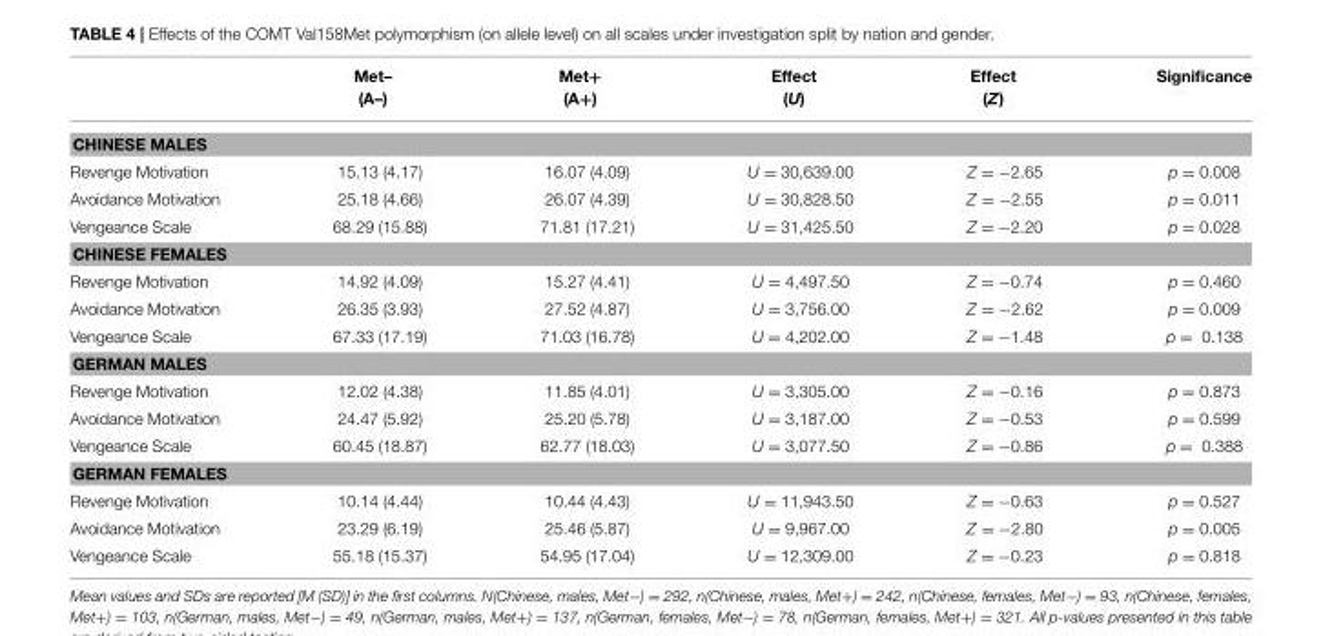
<table><thead><tr><td></td><td>Met– (A–)</td><td>Met+ (A+)</td><td>Effect (U)</td><td>Effect (Z)</td><td>Significance</td></tr></thead><tbody><tr><td colspan="6">CHINESE MALES</td></tr><tr><td>Revenge Motivation</td><td>15.13 (4.17)</td><td>16.07 (4.09)</td><td>U = 30,639.00</td><td>Z = −2.65</td><td>p = 0.008</td></tr><tr><td>Avoidance Motivation</td><td>25.18 (4.66)</td><td>26.07 (4.39)</td><td>U = 30,828.50</td><td>Z = −2.55</td><td>p = 0.011</td></tr><tr><td>Vengeance Scale</td><td>68.29 (15.88)</td><td>71.81 (17.21)</td><td>U = 31,425.50</td><td>Z = −2.20</td><td>p = 0.028</td></tr><tr><td colspan="6">CHINESE FEMALES</td></tr><tr><td>Revenge Motivation</td><td>14.92 (4.09)</td><td>15.27 (4.41)</td><td>U = 4,497.50</td><td>Z = −0.74</td><td>p = 0.460</td></tr><tr><td>Avoidance Motivation</td><td>26.35 (3.93)</td><td>27.52 (4.87)</td><td>U = 3,756.00</td><td>Z = −2.62</td><td>p = 0.009</td></tr><tr><td>Vengeance Scale</td><td>67.33 (17.19)</td><td>71.03 (16.78)</td><td>U = 4,202.00</td><td>Z = −1.48</td><td>p = 0.138</td></tr><tr><td colspan="6">GERMAN MALES</td></tr><tr><td>Revenge Motivation</td><td>12.02 (4.38)</td><td>11.85 (4.01)</td><td>U = 3,305.00</td><td>Z = −0.16</td><td>p = 0.873</td></tr><tr><td>Avoidance Motivation</td><td>24.47 (5.92)</td><td>25.20 (5.78)</td><td>U = 3,187.00</td><td>Z = −0.53</td><td>p = 0.599</td></tr><tr><td>Vengeance Scale</td><td>60.45 (18.87)</td><td>62.77 (18.03)</td><td>U = 3,077.50</td><td>Z = −0.86</td><td>p = 0.388</td></tr><tr><td colspan="6">GERMAN FEMALES</td></tr><tr><td>Revenge Motivation</td><td>10.14 (4.44)</td><td>10.44 (4.43)</td><td>U = 11,943.50</td><td>Z = −0.63</td><td>p = 0.527</td></tr><tr><td>Avoidance Motivation</td><td>23.29 (6.19)</td><td>25.46 (5.87)</td><td>U = 9,967.00</td><td>Z = −2.80</td><td>p = 0.005</td></tr><tr><td>Vengeance Scale</td><td>55.18 (15.37)</td><td>54.95 (17.04)</td><td>U = 12,309.00</td><td>Z = −0.23</td><td>p = 0.818</td></tr></tbody></table>